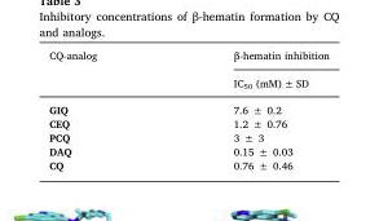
<table><thead><tr><td rowspan="2">CQ-analog</td><td rowspan="2">β-hematin inhibition IC<sub>50</sub> (mM) ± SD</td></tr><tr></tr></thead><tbody><tr><td>GIQ</td><td>7.6 ± 0.2</td></tr><tr><td>CEQ</td><td>1.2 ± 0.76</td></tr><tr><td>PCQ</td><td>3 ± 3</td></tr><tr><td>DAQ</td><td>0.15 ± 0.03</td></tr><tr><td>CQ</td><td>0.76 ± 0.46</td></tr></tbody></table>